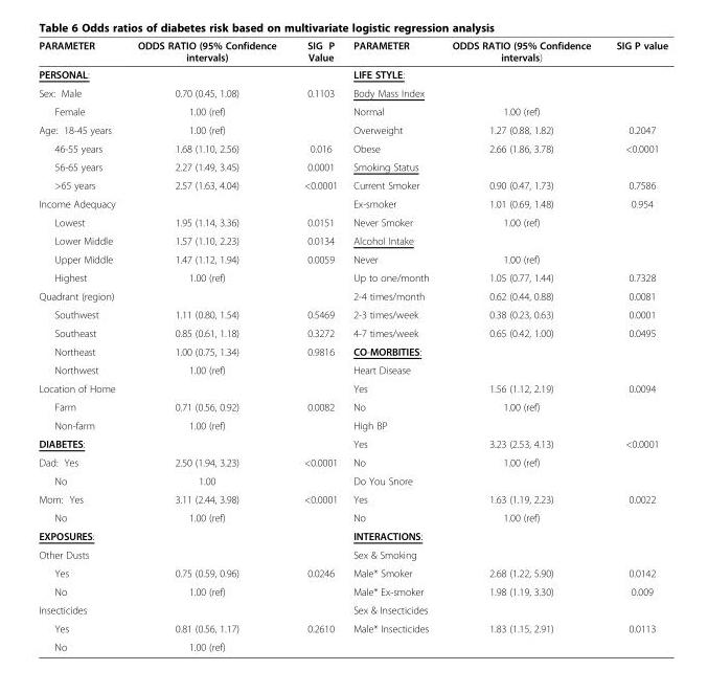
<table><thead><tr><td>PARAMETER</td><td>ODDS RATIO (95% Confidence intervals)</td><td>SIG P Value</td><td>PARAMETER</td><td>ODDS RATIO (95% Confidence intervals)</td><td>SIG P value</td></tr></thead><tbody><tr><td>PERSONAL:</td><td></td><td></td><td>LIFE STYLE:</td><td></td><td></td></tr><tr><td>Sex: Male</td><td>0.70 (0.45, 1.08)</td><td>0.1103</td><td>Body Mass Index</td><td></td><td></td></tr><tr><td>Female</td><td>1.00 (ref)</td><td></td><td>Normal</td><td>1.00 (ref)</td><td></td></tr><tr><td>Age: 18-45 years</td><td>1.00 (ref)</td><td></td><td>Overweight</td><td>1.27 (0.88, 1.82)</td><td>0.2047</td></tr><tr><td>46-55 years</td><td>1.68 (1.10, 2.56)</td><td>0.016</td><td>Obese</td><td>2.66 (1.86, 3.78)</td><td>&lt;0.0001</td></tr><tr><td>56-65 years</td><td>2.27 (1.49, 3.45)</td><td>0.0001</td><td>Smoking Status</td><td></td><td></td></tr><tr><td>&gt;65 years</td><td>2.57 (1.63, 4.04)</td><td>&lt;0.0001</td><td>Current Smoker</td><td>0.90 (0.47, 1.73)</td><td>0.7586</td></tr><tr><td>Income Adequacy</td><td></td><td></td><td>Ex-smoker</td><td>1.01 (0.69, 1.48)</td><td>0.954</td></tr><tr><td>Lowest</td><td>1.95 (1.14, 3.36)</td><td>0.0151</td><td>Never Smoker</td><td>1.00 (ref)</td><td></td></tr><tr><td>Lower Middle</td><td>1.57 (1.10, 2.23)</td><td>0.0134</td><td>Alcohol Intake</td><td></td><td></td></tr><tr><td>Upper Middle</td><td>1.47 (1.12, 1.94)</td><td>0.0059</td><td>Never</td><td>1.00 (ref)</td><td></td></tr><tr><td>Highest</td><td>1.00 (ref)</td><td></td><td>Up to one/month</td><td>1.05 (0.77, 1.44)</td><td>0.7328</td></tr><tr><td>Quadrant (region)</td><td></td><td></td><td>2-4 times/month</td><td>0.62 (0.44, 0.88)</td><td>0.0081</td></tr><tr><td>Southwest</td><td>1.11 (0.80, 1.54)</td><td>0.5469</td><td>2-3 times/week</td><td>0.38 (0.23, 0.63)</td><td>0.0001</td></tr><tr><td>Southeast</td><td>0.85 (0.61, 1.18)</td><td>0.3272</td><td>4-7 times/week</td><td>0.65 (0.42, 1.00)</td><td>0.0495</td></tr><tr><td>Northeast</td><td>1.00 (0.75, 1.34)</td><td>0.9816</td><td>CO-MORBITIES:</td><td></td><td></td></tr><tr><td>Northwest</td><td>1.00 (ref)</td><td></td><td>Heart Disease</td><td></td><td></td></tr><tr><td>Location of Home</td><td></td><td></td><td>Yes</td><td>1.56 (1.12, 2.19)</td><td>0.0094</td></tr><tr><td>Farm</td><td>0.71 (0.56, 0.92)</td><td>0.0082</td><td>No</td><td>1.00 (ref)</td><td></td></tr><tr><td>Non-farm</td><td>1.00 (ref)</td><td></td><td>High BP</td><td></td><td></td></tr><tr><td>DIABETES:</td><td></td><td></td><td>Yes</td><td>3.23 (2.53, 4.13)</td><td>&lt;0.0001</td></tr><tr><td>Dad: Yes</td><td>2.50 (1.94, 3.23)</td><td>&lt;0.0001</td><td>No</td><td>1.00 (ref)</td><td></td></tr><tr><td>No</td><td>1.00</td><td></td><td>Do You Snore</td><td></td><td></td></tr><tr><td>Mom: Yes</td><td>3.11 (2.44, 3.98)</td><td>&lt;0.0001</td><td>Yes</td><td>1.63 (1.19, 2.23)</td><td>0.0022</td></tr><tr><td>No</td><td>1.00 (ref)</td><td></td><td>No</td><td>1.00 (ref)</td><td></td></tr><tr><td>EXPOSURES:</td><td></td><td></td><td>INTERACTIONS:</td><td></td><td></td></tr><tr><td>Other Dusts</td><td></td><td></td><td>Sex &amp; Smoking</td><td></td><td></td></tr><tr><td>Yes</td><td>0.75 (0.59, 0.96)</td><td>0.0246</td><td>Male* Smoker</td><td>2.68 (1.22, 5.90)</td><td>0.0142</td></tr><tr><td>No</td><td>1.00 (ref)</td><td></td><td>Male* Ex-smoker</td><td>1.98 (1.19, 3.30)</td><td>0.009</td></tr><tr><td>Insecticides</td><td></td><td></td><td>Sex &amp; Insecticides</td><td></td><td></td></tr><tr><td>Yes</td><td>0.81 (0.56, 1.17)</td><td>0.2610</td><td>Male* Insecticides</td><td>1.83 (1.15, 2.91)</td><td>0.0113</td></tr><tr><td>No</td><td>1.00 (ref)</td><td></td><td></td><td></td><td></td></tr></tbody></table>